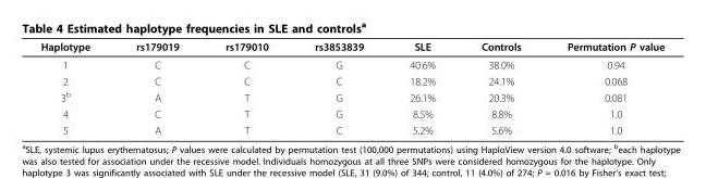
<table><thead><tr><td>Haplotype</td><td>rs179019</td><td>rs179010</td><td>rs3853839</td><td>SLE</td><td>Controls</td><td>Permutation P value</td></tr></thead><tbody><tr><td>1</td><td>C</td><td>C</td><td>G</td><td>40.6%</td><td>38.0%</td><td>0.94</td></tr><tr><td>2</td><td>C</td><td>C</td><td>C</td><td>18.2%</td><td>24.1%</td><td>0.068</td></tr><tr><td>3<sup>b</sup></td><td>A</td><td>T</td><td>G</td><td>26.1%</td><td>20.3%</td><td>0.081</td></tr><tr><td>4</td><td>C</td><td>T</td><td>G</td><td>8.5%</td><td>8.8%</td><td>1.0</td></tr><tr><td>5</td><td>A</td><td>T</td><td>C</td><td>5.2%</td><td>5.6%</td><td>1.0</td></tr></tbody></table>